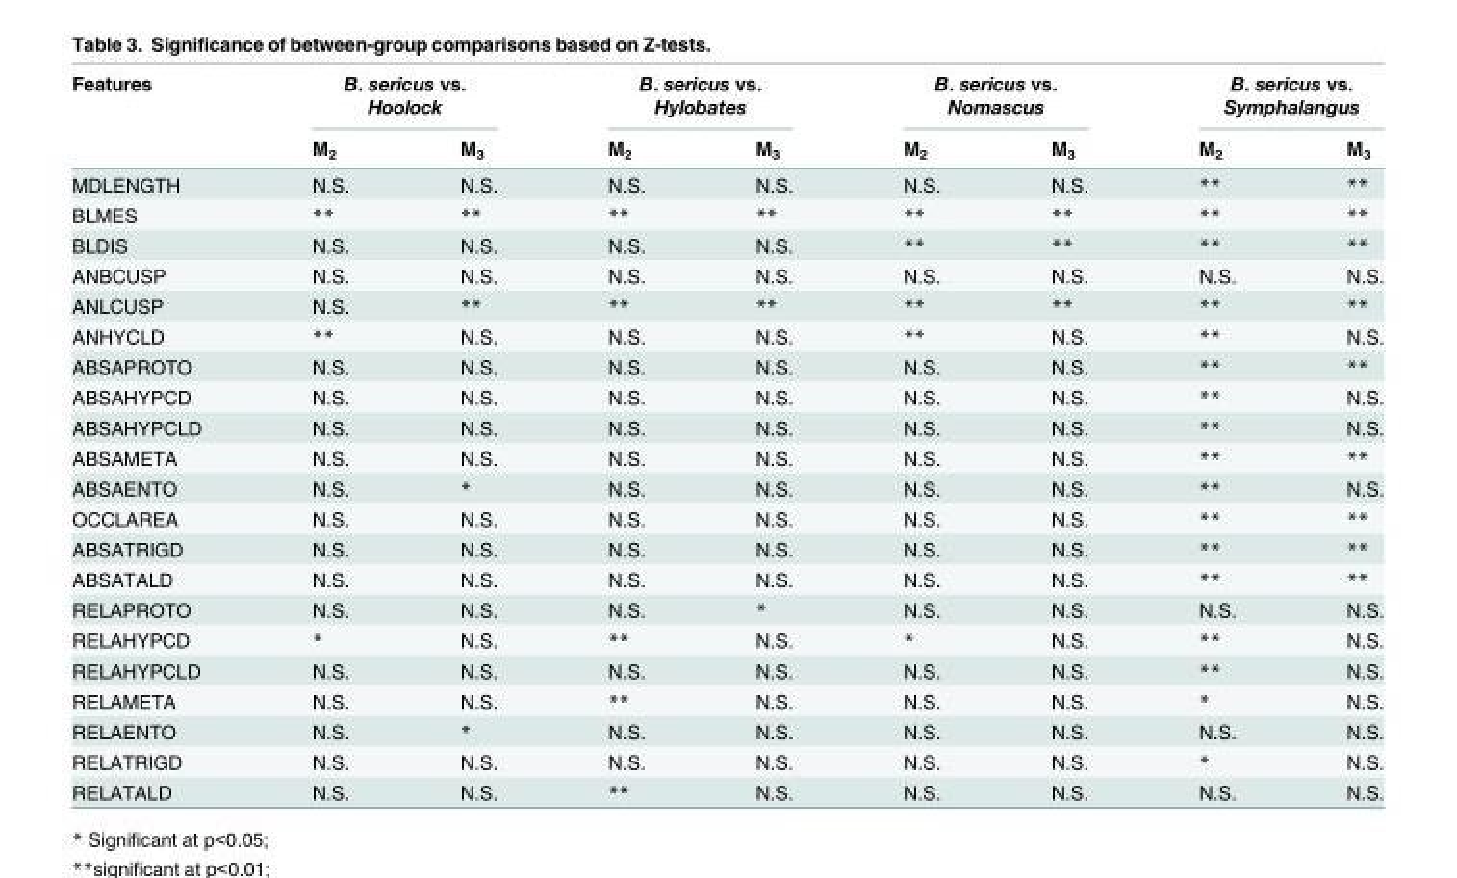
<table><thead><tr><td rowspan="2">Features</td><td colspan="2">B. sericus vs. Hoolock</td><td colspan="2">B. sericus vs. Hylobates</td><td colspan="2">B. sericus vs. Nomascus</td><td colspan="2">B. sericus vs. Symphalangus</td></tr><tr><td>M<sub>2</sub></td><td>M<sub>3</sub></td><td>M<sub>2</sub></td><td>M<sub>3</sub></td><td>M<sub>2</sub></td><td>M<sub>3</sub></td><td>M<sub>2</sub></td><td>M<sub>3</sub></td></tr></thead><tbody><tr><td>MDLENGTH</td><td>N.S.</td><td>N.S.</td><td>N.S.</td><td>N.S.</td><td>N.S.</td><td>N.S.</td><td>**</td><td>**</td></tr><tr><td>BLMES</td><td>**</td><td>**</td><td>**</td><td>**</td><td>**</td><td>**</td><td>**</td><td>**</td></tr><tr><td>BLDIS</td><td>N.S.</td><td>N.S.</td><td>N.S.</td><td>N.S.</td><td>**</td><td>**</td><td>**</td><td>**</td></tr><tr><td>ANBCUSP</td><td>N.S.</td><td>N.S.</td><td>N.S.</td><td>N.S.</td><td>N.S.</td><td>N.S.</td><td>N.S.</td><td>N.S.</td></tr><tr><td>ANLCUSP</td><td>N.S.</td><td>**</td><td>**</td><td>**</td><td>**</td><td>**</td><td>**</td><td>**</td></tr><tr><td>ANHYCLD</td><td>**</td><td>N.S.</td><td>N.S.</td><td>N.S.</td><td>**</td><td>N.S.</td><td>**</td><td>N.S.</td></tr><tr><td>ABSAPROTO</td><td>N.S.</td><td>N.S.</td><td>N.S.</td><td>N.S.</td><td>N.S.</td><td>N.S.</td><td>**</td><td>**</td></tr><tr><td>ABSAHYPCD</td><td>N.S.</td><td>N.S.</td><td>N.S.</td><td>N.S.</td><td>N.S.</td><td>N.S.</td><td>**</td><td>N.S.</td></tr><tr><td>ABSAHYPCLD</td><td>N.S.</td><td>N.S.</td><td>N.S.</td><td>N.S.</td><td>N.S.</td><td>N.S.</td><td>**</td><td>N.S.</td></tr><tr><td>ABSAMETA</td><td>N.S.</td><td>N.S.</td><td>N.S.</td><td>N.S.</td><td>N.S.</td><td>N.S.</td><td>**</td><td>**</td></tr><tr><td>ABSAENTO</td><td>N.S.</td><td>*</td><td>N.S.</td><td>N.S.</td><td>N.S.</td><td>N.S.</td><td>**</td><td>N.S.</td></tr><tr><td>OCCLAREA</td><td>N.S.</td><td>N.S.</td><td>N.S.</td><td>N.S.</td><td>N.S.</td><td>N.S.</td><td>**</td><td>**</td></tr><tr><td>ABSATRIGD</td><td>N.S.</td><td>N.S.</td><td>N.S.</td><td>N.S.</td><td>N.S.</td><td>N.S.</td><td>**</td><td>**</td></tr><tr><td>ABSATALD</td><td>N.S.</td><td>N.S.</td><td>N.S.</td><td>N.S.</td><td>N.S.</td><td>N.S.</td><td>**</td><td>**</td></tr><tr><td>RELAPROTO</td><td>N.S.</td><td>N.S.</td><td>N.S.</td><td>*</td><td>N.S.</td><td>N.S.</td><td>N.S.</td><td>N.S.</td></tr><tr><td>RELAHYPCD</td><td>*</td><td>N.S.</td><td>**</td><td>N.S.</td><td>*</td><td>N.S.</td><td>**</td><td>N.S.</td></tr><tr><td>RELAHYPCLD</td><td>N.S.</td><td>N.S.</td><td>N.S.</td><td>N.S.</td><td>N.S.</td><td>N.S.</td><td>**</td><td>N.S.</td></tr><tr><td>RELAMETA</td><td>N.S.</td><td>N.S.</td><td>**</td><td>N.S.</td><td>N.S.</td><td>N.S.</td><td>*</td><td>N.S.</td></tr><tr><td>RELAENTO</td><td>N.S.</td><td>*</td><td>N.S.</td><td>N.S.</td><td>N.S.</td><td>N.S.</td><td>N.S.</td><td>N.S.</td></tr><tr><td>RELATRIGD</td><td>N.S.</td><td>N.S.</td><td>N.S.</td><td>N.S.</td><td>N.S.</td><td>N.S.</td><td>*</td><td>N.S.</td></tr><tr><td>RELATALD</td><td>N.S.</td><td>N.S.</td><td>**</td><td>N.S.</td><td>N.S.</td><td>N.S.</td><td>N.S.</td><td>N.S.</td></tr></tbody></table>